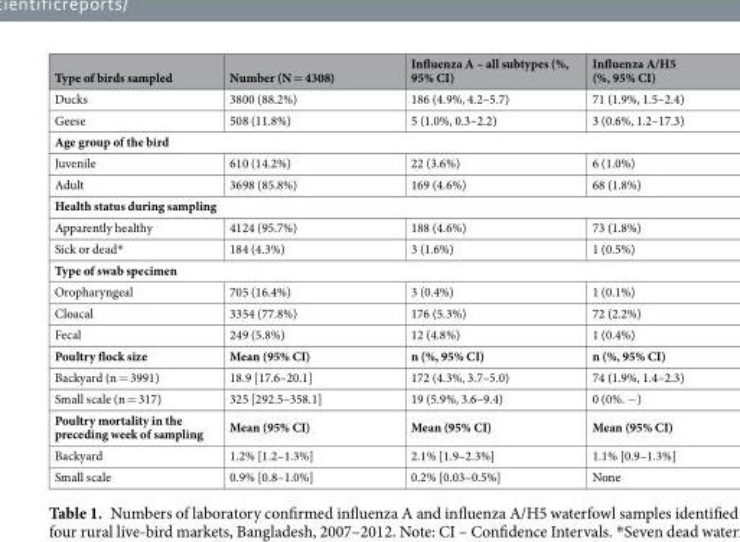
<table><thead><tr><td>Type of birds sampled</td><td>Number (N = 4308)</td><td>Influenza A – all subtypes (%, 95% CI)</td><td>Influenza A/H5 (%, 95% CI)</td></tr></thead><tbody><tr><td>Ducks</td><td>3800 (88.2%)</td><td>186 (4.9%, 4.2–5.7)</td><td>71 (1.9%, 1.5–2.4)</td></tr><tr><td>Geese</td><td>508 (11.8%)</td><td>5 (1.0%, 0.3–2.2)</td><td>3 (0.6%, 1.2–17.3)</td></tr><tr><td colspan="4">Age group of the bird</td></tr><tr><td>Juvenile</td><td>610 (14.2%)</td><td>22 (3.6%)</td><td>6 (1.0%)</td></tr><tr><td>Adult</td><td>3698 (85.8%)</td><td>169 (4.6%)</td><td>68 (1.8%)</td></tr><tr><td colspan="4">Health status during sampling</td></tr><tr><td>Apparently healthy</td><td>4124 (95.7%)</td><td>188 (4.6%)</td><td>73 (1.8%)</td></tr><tr><td>Sick or dead*</td><td>184 (4.3%)</td><td>3 (1.6%)</td><td>1 (0.5%)</td></tr><tr><td colspan="4">Type of swab specimen</td></tr><tr><td>Oropharyngeal</td><td>705 (16.4%)</td><td>3 (0.4%)</td><td>1 (0.1%)</td></tr><tr><td>Cloacal</td><td>3354 (77.8%)</td><td>176 (5.3%)</td><td>72 (2.2%)</td></tr><tr><td>Fecal</td><td>249 (5.8%)</td><td>12 (4.8%)</td><td>1 (0.4%)</td></tr><tr><td>Poultry flock size</td><td>Mean (95% CI)</td><td>n (%, 95% CI)</td><td>n (%, 95% CI)</td></tr><tr><td>Backyard (n = 3991)</td><td>18.9 [17.6–20.1]</td><td>172 (4.3%, 3.7–5.0)</td><td>74 (1.9%, 1.4–2.3)</td></tr><tr><td>Small scale (n = 317)</td><td>325 [292.5–358.1]</td><td>19 (5.9%, 3.6–9.4)</td><td>0 (0%. −)</td></tr><tr><td>Poultry mortality in the preceding week of sampling</td><td>Mean (95% CI)</td><td>Mean (95% CI)</td><td>Mean (95% CI)</td></tr><tr><td>Backyard</td><td>1.2% [1.2–1.3%]</td><td>2.1% [1.9–2.3%]</td><td>1.1% [0.9–1.3%]</td></tr><tr><td>Small scale</td><td>0.9% [0.8–1.0%]</td><td>0.2% [0.03–0.5%]</td><td>None</td></tr></tbody></table>